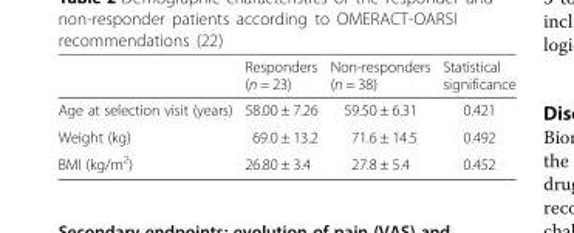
<table><thead><tr><td></td><td>Responders (n = 23)</td><td>Non-responders (n = 38)</td><td>Statistical significance</td></tr></thead><tbody><tr><td>Age at selection visit (years)</td><td>58.00 ± 7.26</td><td>59.50 ± 6.31</td><td>0.421</td></tr><tr><td>Weight (kg)</td><td>69.0 ± 13.2</td><td>71.6 ± 14.5</td><td>0.492</td></tr><tr><td>BMI (kg/m<sup>2</sup>)</td><td>26.80 ± 3.4</td><td>27.8 ± 5.4</td><td>0.452</td></tr></tbody></table>